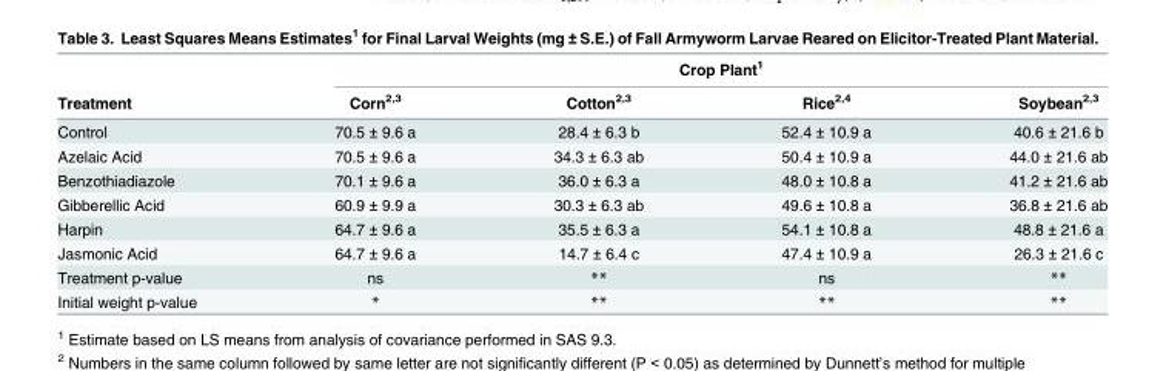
<table><thead><tr><td rowspan="2">Treatment</td><td colspan="4">Crop Plant<sup>1</sup></td></tr><tr><td>Corn<sup>2,3</sup></td><td>Cotton<sup>2,3</sup></td><td>Rice<sup>2,4</sup></td><td>Soybean<sup>2,3</sup></td></tr></thead><tbody><tr><td>Control</td><td>70.5 ± 9.6 a</td><td>28.4 ± 6.3 b</td><td>52.4 ± 10.9 a</td><td>40.6 ± 21.6 b</td></tr><tr><td>Azelaic Acid</td><td>70.5 ± 9.6 a</td><td>34.3 ± 6.3 ab</td><td>50.4 ± 10.9 a</td><td>44.0 ± 21.6 ab</td></tr><tr><td>Benzothiadiazole</td><td>70.1 ± 9.6 a</td><td>36.0 ± 6.3 a</td><td>48.0 ± 10.8 a</td><td>41.2 ± 21.6 ab</td></tr><tr><td>Gibberellic Acid</td><td>60.9 ± 9.9 a</td><td>30.3 ± 6.3 ab</td><td>49.6 ± 10.8 a</td><td>36.8 ± 21.6 ab</td></tr><tr><td>Harpin</td><td>64.7 ± 9.6 a</td><td>35.5 ± 6.3 a</td><td>54.1 ± 10.8 a</td><td>48.8 ± 21.6 a</td></tr><tr><td>Jasmonic Acid</td><td>64.7 ± 9.6 a</td><td>14.7 ± 6.4 c</td><td>47.4 ± 10.9 a</td><td>26.3 ± 21.6 c</td></tr><tr><td>Treatment p-value</td><td>ns</td><td>**</td><td>ns</td><td>**</td></tr><tr><td>Initial weight p-value</td><td>*</td><td>**</td><td>**</td><td>**</td></tr></tbody></table>